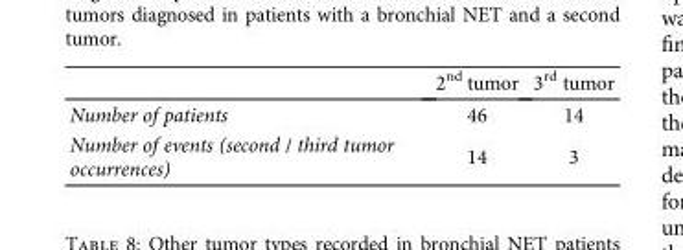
<table><thead><tr><td></td><td>2<sup>nd</sup> tumor</td><td>3<sup>rd</sup> tumor</td></tr></thead><tbody><tr><td>Number of patients</td><td>46</td><td>14</td></tr><tr><td>Number of events (second / third tumor occurrences)</td><td>14</td><td>3</td></tr></tbody></table>